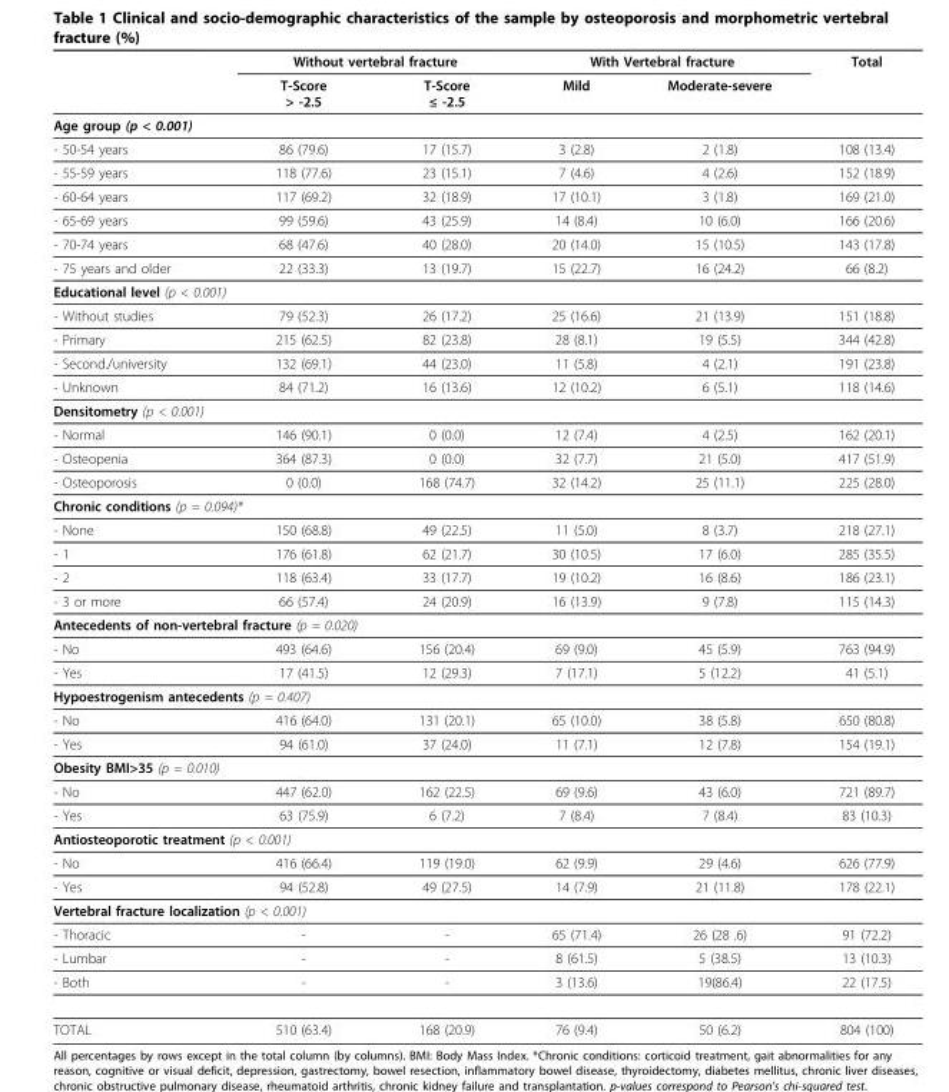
<table><thead><tr><td rowspan="2"></td><td colspan="2">Without vertebral fracture</td><td colspan="2">With Vertebral fracture</td><td rowspan="2">Total</td></tr><tr><td>T-Score &gt; -2.5</td><td>T-Score ≤ -2.5</td><td>Mild</td><td>Moderate-severe</td></tr></thead><tbody><tr><td colspan="6">Age group (p &lt; 0.001)</td></tr><tr><td>- 50-54 years</td><td>86 (79.6)</td><td>17 (15.7)</td><td>3 (2.8)</td><td>2 (1.8)</td><td>108 (13.4)</td></tr><tr><td>- 55-59 years</td><td>118 (77.6)</td><td>23 (15.1)</td><td>7 (4.6)</td><td>4 (2.6)</td><td>152 (18.9)</td></tr><tr><td>- 60-64 years</td><td>117 (69.2)</td><td>32 (18.9)</td><td>17 (10.1)</td><td>3 (1.8)</td><td>169 (21.0)</td></tr><tr><td>- 65-69 years</td><td>99 (59.6)</td><td>43 (25.9)</td><td>14 (8.4)</td><td>10 (6.0)</td><td>166 (20.6)</td></tr><tr><td>- 70-74 years</td><td>68 (47.6)</td><td>40 (28.0)</td><td>20 (14.0)</td><td>15 (10.5)</td><td>143 (17.8)</td></tr><tr><td>- 75 years and older</td><td>22 (33.3)</td><td>13 (19.7)</td><td>15 (22.7)</td><td>16 (24.2)</td><td>66 (8.2)</td></tr><tr><td colspan="6">Educational level (p &lt; 0.001)</td></tr><tr><td>- Without studies</td><td>79 (52.3)</td><td>26 (17.2)</td><td>25 (16.6)</td><td>21 (13.9)</td><td>151 (18.8)</td></tr><tr><td>- Primary</td><td>215 (62.5)</td><td>82 (23.8)</td><td>28 (8.1)</td><td>19 (5.5)</td><td>344 (42.8)</td></tr><tr><td>- Second./university</td><td>132 (69.1)</td><td>44 (23.0)</td><td>11 (5.8)</td><td>4 (2.1)</td><td>191 (23.8)</td></tr><tr><td>- Unknown</td><td>84 (71.2)</td><td>16 (13.6)</td><td>12 (10.2)</td><td>6 (5.1)</td><td>118 (14.6)</td></tr><tr><td colspan="6">Densitometry (p &lt; 0.001)</td></tr><tr><td>- Normal</td><td>146 (90.1)</td><td>0 (0.0)</td><td>12 (7.4)</td><td>4 (2.5)</td><td>162 (20.1)</td></tr><tr><td>- Osteopenia</td><td>364 (87.3)</td><td>0 (0.0)</td><td>32 (7.7)</td><td>21 (5.0)</td><td>417 (51.9)</td></tr><tr><td>- Osteoporosis</td><td>0 (0.0)</td><td>168 (74.7)</td><td>32 (14.2)</td><td>25 (11.1)</td><td>225 (28.0)</td></tr><tr><td colspan="6">Chronic conditions (p = 0.094)*</td></tr><tr><td>- None</td><td>150 (68.8)</td><td>49 (22.5)</td><td>11 (5.0)</td><td>8 (3.7)</td><td>218 (27.1)</td></tr><tr><td>- 1</td><td>176 (61.8)</td><td>62 (21.7)</td><td>30 (10.5)</td><td>17 (6.0)</td><td>285 (35.5)</td></tr><tr><td>- 2</td><td>118 (63.4)</td><td>33 (17.7)</td><td>19 (10.2)</td><td>16 (8.6)</td><td>186 (23.1)</td></tr><tr><td>- 3 or more</td><td>66 (57.4)</td><td>24 (20.9)</td><td>16 (13.9)</td><td>9 (7.8)</td><td>115 (14.3)</td></tr><tr><td colspan="6">Antecedents of non-vertebral fracture (p = 0.020)</td></tr><tr><td>- No</td><td>493 (64.6)</td><td>156 (20.4)</td><td>69 (9.0)</td><td>45 (5.9)</td><td>763 (94.9)</td></tr><tr><td>- Yes</td><td>17 (41.5)</td><td>12 (29.3)</td><td>7 (17.1)</td><td>5 (12.2)</td><td>41 (5.1)</td></tr><tr><td colspan="6">Hypoestrogenism antecedents (p = 0.407)</td></tr><tr><td>- No</td><td>416 (64.0)</td><td>131 (20.1)</td><td>65 (10.0)</td><td>38 (5.8)</td><td>650 (80.8)</td></tr><tr><td>- Yes</td><td>94 (61.0)</td><td>37 (24.0)</td><td>11 (7.1)</td><td>12 (7.8)</td><td>154 (19.1)</td></tr><tr><td colspan="6">Obesity BMI&gt;35 (p = 0.010)</td></tr><tr><td>- No</td><td>447 (62.0)</td><td>162 (22.5)</td><td>69 (9.6)</td><td>43 (6.0)</td><td>721 (89.7)</td></tr><tr><td>- Yes</td><td>63 (75.9)</td><td>6 (7.2)</td><td>7 (8.4)</td><td>7 (8.4)</td><td>83 (10.3)</td></tr><tr><td colspan="6">Antiosteoporotic treatment (p &lt; 0.001)</td></tr><tr><td>- No</td><td>416 (66.4)</td><td>119 (19.0)</td><td>62 (9.9)</td><td>29 (4.6)</td><td>626 (77.9)</td></tr><tr><td>- Yes</td><td>94 (52.8)</td><td>49 (27.5)</td><td>14 (7.9)</td><td>21 (11.8)</td><td>178 (22.1)</td></tr><tr><td colspan="6">Vertebral fracture localization (p &lt; 0.001)</td></tr><tr><td>- Thoracic</td><td>-</td><td>-</td><td>65 (71.4)</td><td>26 (28 .6)</td><td>91 (72.2)</td></tr><tr><td>- Lumbar</td><td>-</td><td>-</td><td>8 (61.5)</td><td>5 (38.5)</td><td>13 (10.3)</td></tr><tr><td>- Both</td><td>-</td><td>-</td><td>3 (13.6)</td><td>19(86.4)</td><td>22 (17.5)</td></tr><tr><td>TOTAL</td><td>510 (63.4)</td><td>168 (20.9)</td><td>76 (9.4)</td><td>50 (6.2)</td><td>804 (100)</td></tr></tbody></table>